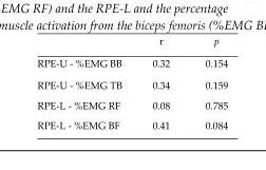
<table><thead><tr><td></td><td>r</td><td>p</td></tr></thead><tbody><tr><td>RPE-U - %EMG BB</td><td>0.32</td><td>0.154</td></tr><tr><td>RPE-U - %EMG TB</td><td>0.34</td><td>0.159</td></tr><tr><td>RPE-L - %EMG RF</td><td>0.08</td><td>0.785</td></tr><tr><td>RPE-L - %EMG BF</td><td>0.41</td><td>0.084</td></tr></tbody></table>